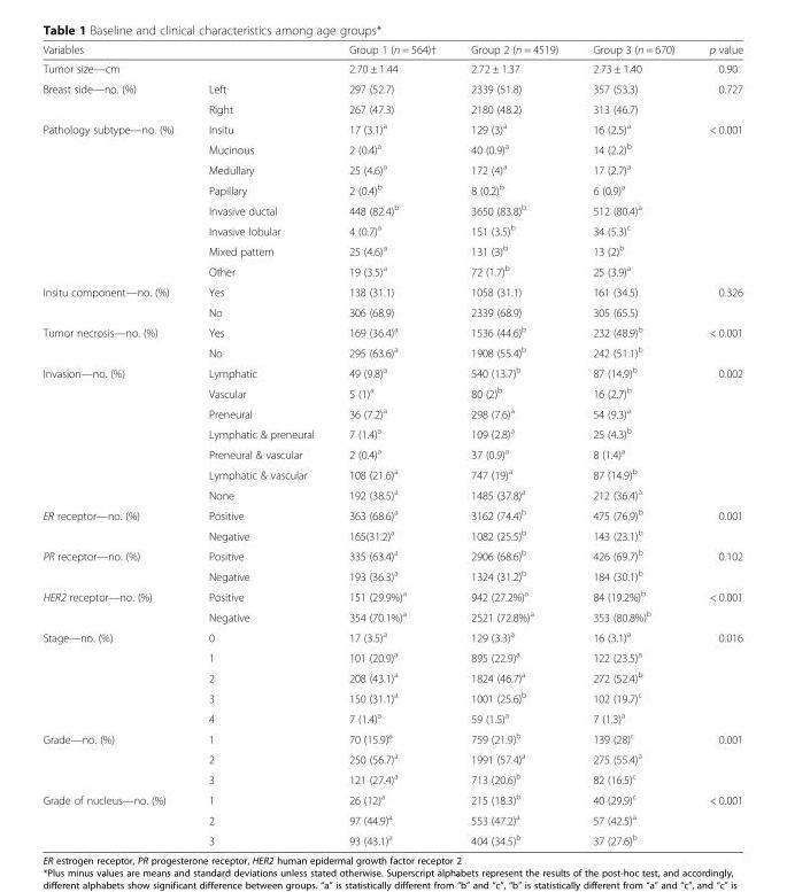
<table><thead><tr><td colspan="2">Variables</td><td rowspan="2">Group 1 (n = 564)† 2.70 ± 1.44</td><td rowspan="2">Group 2 (n = 4519) 2.72 ± 1.37</td><td rowspan="2">Group 3 (n = 670) 2.73 ± 1.40</td><td rowspan="2">p value 0.90</td></tr><tr><td>Tumor size—cm</td><td></td></tr></thead><tbody><tr><td rowspan="2">Breast side—no. (%)</td><td>Left</td><td>297 (52.7)</td><td>2339 (51.8)</td><td>357 (53.3)</td><td rowspan="2">0.727</td></tr><tr><td>Right</td><td>267 (47.3)</td><td>2180 (48.2)</td><td>313 (46.7)</td></tr><tr><td rowspan="8">Pathology subtype—no. (%)</td><td>Insitu</td><td>17 (3.1)<sup>a</sup></td><td>129 (3)<sup>a</sup></td><td>16 (2.5)<sup>a</sup></td><td rowspan="8">&lt; 0.001</td></tr><tr><td>Mucinous</td><td>2 (0.4)<sup>a</sup></td><td>40 (0.9)<sup>a</sup></td><td>14 (2.2)<sup>b</sup></td></tr><tr><td>Medullary</td><td>25 (4.6)<sup>a</sup></td><td>172 (4)<sup>a</sup></td><td>17 (2.7)<sup>a</sup></td></tr><tr><td>Papillary</td><td>2 (0.4)<sup>b</sup></td><td>8 (0.2)<sup>b</sup></td><td>6 (0.9)<sup>a</sup></td></tr><tr><td>Invasive ductal</td><td>448 (82.4)<sup>b</sup></td><td>3650 (83.8)<sup>b</sup></td><td>512 (80.4)<sup>a</sup></td></tr><tr><td>Invasive lobular</td><td>4 (0.7)<sup>a</sup></td><td>151 (3.5)<sup>b</sup></td><td>34 (5.3)<sup>c</sup></td></tr><tr><td>Mixed pattern</td><td>25 (4.6)<sup>a</sup></td><td>131 (3)<sup>b</sup></td><td>13 (2)<sup>b</sup></td></tr><tr><td>Other</td><td>19 (3.5)<sup>a</sup></td><td>72 (1.7)<sup>b</sup></td><td>25 (3.9)<sup>a</sup></td></tr><tr><td rowspan="2">Insitu component—no. (%)</td><td>Yes</td><td>138 (31.1)</td><td>1058 (31.1)</td><td>161 (34.5)</td><td rowspan="2">0.326</td></tr><tr><td>No</td><td>306 (68.9)</td><td>2339 (68.9)</td><td>305 (65.5)</td></tr><tr><td rowspan="2">Tumor necrosis—no. (%)</td><td>Yes</td><td>169 (36.4)<sup>a</sup></td><td>1536 (44.6)<sup>b</sup></td><td>232 (48.9)<sup>b</sup></td><td rowspan="2">&lt; 0.001</td></tr><tr><td>No</td><td>295 (63.6)<sup>a</sup></td><td>1908 (55.4)<sup>b</sup></td><td>242 (51.1)<sup>b</sup></td></tr><tr><td rowspan="7">Invasion—no. (%)</td><td>Lymphatic</td><td>49 (9.8)<sup>a</sup></td><td>540 (13.7)<sup>b</sup></td><td>87 (14.9)<sup>b</sup></td><td rowspan="7">0.002</td></tr><tr><td>Vascular</td><td>5 (1)<sup>a</sup></td><td>80 (2)<sup>b</sup></td><td>16 (2.7)<sup>b</sup></td></tr><tr><td>Preneural</td><td>36 (7.2)<sup>a</sup></td><td>298 (7.6)<sup>a</sup></td><td>54 (9.3)<sup>a</sup></td></tr><tr><td>Lymphatic &amp; preneural</td><td>7 (1.4)<sup>a</sup></td><td>109 (2.8)<sup>a</sup></td><td>25 (4.3)<sup>b</sup></td></tr><tr><td>Preneural &amp; vascular</td><td>2 (0.4)<sup>a</sup></td><td>37 (0.9)<sup>a</sup></td><td>8 (1.4)<sup>a</sup></td></tr><tr><td>Lymphatic &amp; vascular</td><td>108 (21.6)<sup>a</sup></td><td>747 (19)<sup>a</sup></td><td>87 (14.9)<sup>b</sup></td></tr><tr><td>None</td><td>192 (38.5)<sup>a</sup></td><td>1485 (37.8)<sup>a</sup></td><td>212 (36.4)<sup>a</sup></td></tr><tr><td rowspan="2">ER receptor—no. (%)</td><td>Positive</td><td>363 (68.6)<sup>a</sup></td><td>3162 (74.4)<sup>b</sup></td><td>475 (76.9)<sup>b</sup></td><td rowspan="2">0.001</td></tr><tr><td>Negative</td><td>165(31.2)<sup>a</sup></td><td>1082 (25.5)<sup>b</sup></td><td>143 (23.1)<sup>b</sup></td></tr><tr><td rowspan="2">PR receptor—no. (%)</td><td>Positive</td><td>335 (63.4)<sup>a</sup></td><td>2906 (68.6)<sup>b</sup></td><td>426 (69.7)<sup>b</sup></td><td rowspan="2">0.102</td></tr><tr><td>Negative</td><td>193 (36.3)<sup>a</sup></td><td>1324 (31.2)<sup>b</sup></td><td>184 (30.1)<sup>b</sup></td></tr><tr><td rowspan="2">HER2 receptor—no. (%)</td><td>Positive</td><td>151 (29.9%)<sup>a</sup></td><td>942 (27.2%)<sup>a</sup></td><td>84 (19.2%)<sup>b</sup></td><td rowspan="2">&lt; 0.001</td></tr><tr><td>Negative</td><td>354 (70.1%)<sup>a</sup></td><td>2521 (72.8%)<sup>a</sup></td><td>353 (80.8%)<sup>b</sup></td></tr><tr><td rowspan="5">Stage—no. (%)</td><td>0</td><td>17 (3.5)<sup>a</sup></td><td>129 (3.3)<sup>a</sup></td><td>16 (3.1)<sup>a</sup></td><td rowspan="5">0.016</td></tr><tr><td>1</td><td>101 (20.9)<sup>a</sup></td><td>895 (22.9)<sup>a</sup></td><td>122 (23.5)<sup>a</sup></td></tr><tr><td>2</td><td>208 (43.1)<sup>a</sup></td><td>1824 (46.7)<sup>a</sup></td><td>272 (52.4)<sup>b</sup></td></tr><tr><td>3</td><td>150 (31.1)<sup>a</sup></td><td>1001 (25.6)<sup>b</sup></td><td>102 (19.7)<sup>c</sup></td></tr><tr><td>4</td><td>7 (1.4)<sup>a</sup></td><td>59 (1.5)<sup>a</sup></td><td>7 (1.3)<sup>a</sup></td></tr><tr><td rowspan="3">Grade—no. (%)</td><td>1</td><td>70 (15.9)<sup>a</sup></td><td>759 (21.9)<sup>b</sup></td><td>139 (28)<sup>c</sup></td><td rowspan="3">0.001</td></tr><tr><td>2</td><td>250 (56.7)<sup>a</sup></td><td>1991 (57.4)<sup>a</sup></td><td>275 (55.4)<sup>a</sup></td></tr><tr><td>3</td><td>121 (27.4)<sup>a</sup></td><td>713 (20.6)<sup>b</sup></td><td>82 (16.5)<sup>c</sup></td></tr><tr><td rowspan="3">Grade of nucleus—no. (%)</td><td>1</td><td>26 (12)<sup>a</sup></td><td>215 (18.3)<sup>b</sup></td><td>40 (29.9)<sup>c</sup></td><td rowspan="3">&lt; 0.001</td></tr><tr><td>2</td><td>97 (44.9)<sup>a</sup></td><td>553 (47.2)<sup>a</sup></td><td>57 (42.5)<sup>a</sup></td></tr><tr><td>3</td><td>93 (43.1)<sup>a</sup></td><td>404 (34.5)<sup>b</sup></td><td>37 (27.6)<sup>b</sup></td></tr></tbody></table>